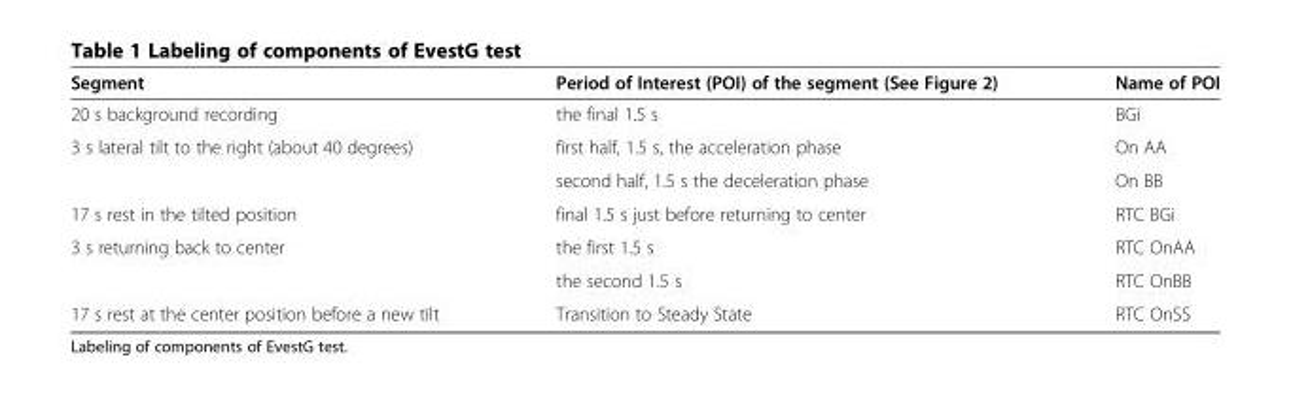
<table><thead><tr><td>Segment</td><td>Period of Interest (POI) of the segment (See Figure 2)</td><td>Name of POI</td></tr></thead><tbody><tr><td>20 s background recording</td><td>the final 1.5 s</td><td>BGi</td></tr><tr><td rowspan="2">3 s lateral tilt to the right (about 40 degrees)</td><td>first half, 1.5 s, the acceleration phase</td><td>On AA</td></tr><tr><td>second half, 1.5 s the deceleration phase</td><td>On BB</td></tr><tr><td>17 s rest in the tilted position</td><td>final 1.5 s just before returning to center</td><td>RTC BGi</td></tr><tr><td rowspan="2">3 s returning back to center</td><td>the first 1.5 s</td><td>RTC OnAA</td></tr><tr><td>the second 1.5 s</td><td>RTC OnBB</td></tr><tr><td>17 s rest at the center position before a new tilt</td><td>Transition to Steady State</td><td>RTC OnSS</td></tr></tbody></table>